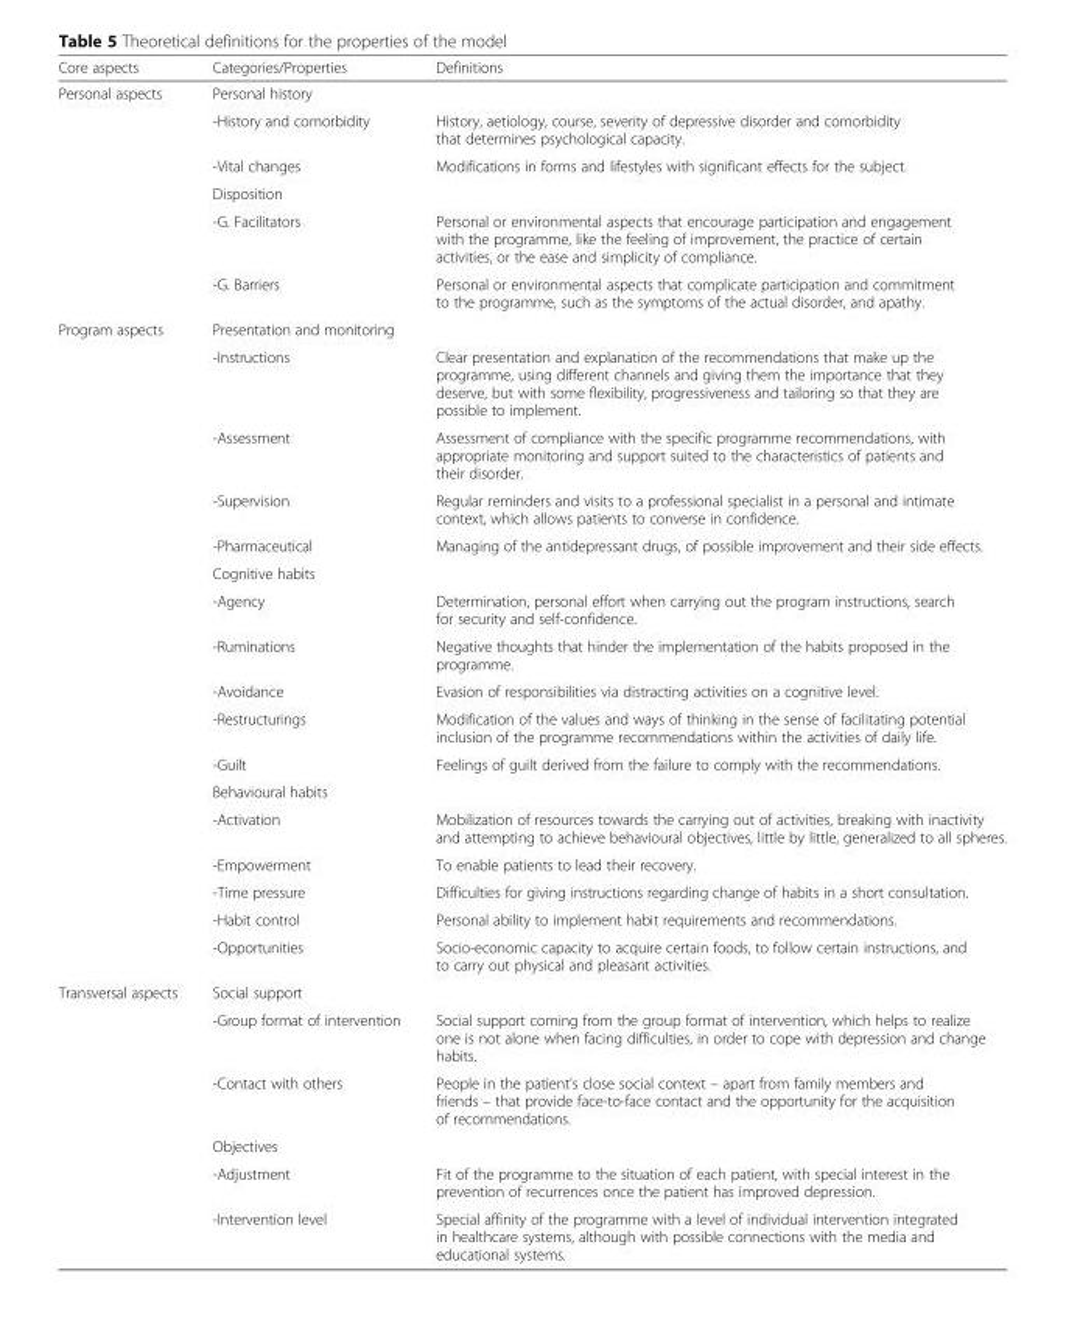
<table><thead><tr><td>Core aspects</td><td>Categories/Properties</td><td>Definitions</td></tr></thead><tbody><tr><td rowspan="6">Personal aspects</td><td>Personal history</td><td></td></tr><tr><td>-History and comorbidity</td><td>History, aetiology, course, severity of depressive disorder and comorbidity that determines psychological capacity.</td></tr><tr><td>-Vital changes</td><td>Modifications in forms and lifestyles with significant effects for the subject.</td></tr><tr><td>Disposition</td><td></td></tr><tr><td>-G. Facilitators</td><td>Personal or environmental aspects that encourage participation and engagement with the programme, like the feeling of improvement, the practice of certain activities, or the ease and simplicity of compliance.</td></tr><tr><td>-G. Barriers</td><td>Personal or environmental aspects that complicate participation and commitment to the programme, such as the symptoms of the actual disorder, and apathy.</td></tr><tr><td rowspan="17">Program aspects</td><td>Presentation and monitoring</td><td></td></tr><tr><td>-Instructions</td><td>Clear presentation and explanation of the recommendations that make up the programme, using different channels and giving them the importance that they deserve, but with some flexibility, progressiveness and tailoring so that they are possible to implement.</td></tr><tr><td>-Assessment</td><td>Assessment of compliance with the specific programme recommendations, with appropriate monitoring and support suited to the characteristics of patients and their disorder.</td></tr><tr><td>-Supervision</td><td>Regular reminders and visits to a professional specialist in a personal and intimate context, which allows patients to converse in confidence.</td></tr><tr><td>-Pharmaceutical</td><td>Managing of the antidepressant drugs, of possible improvement and their side effects.</td></tr><tr><td>Cognitive habits</td><td></td></tr><tr><td>-Agency</td><td>Determination, personal effort when carrying out the program instructions, search for security and self-confidence.</td></tr><tr><td>-Ruminations</td><td>Negative thoughts that hinder the implementation of the habits proposed in the programme.</td></tr><tr><td>-Avoidance</td><td>Evasion of responsibilities via distracting activities on a cognitive level.</td></tr><tr><td>-Restructurings</td><td>Modification of the values and ways of thinking in the sense of facilitating potential inclusion of the programme recommendations within the activities of daily life.</td></tr><tr><td>-Guilt</td><td>Feelings of guilt derived from the failure to comply with the recommendations.</td></tr><tr><td>Behavioural habits</td><td></td></tr><tr><td>-Activation</td><td>Mobilization of resources towards the carrying out of activities, breaking with inactivity and attempting to achieve behavioural objectives, little by little, generalized to all spheres.</td></tr><tr><td>-Empowerment</td><td>To enable patients to lead their recovery.</td></tr><tr><td>-Time pressure</td><td>Difficulties for giving instructions regarding change of habits in a short consultation.</td></tr><tr><td>-Habit control</td><td>Personal ability to implement habit requirements and recommendations.</td></tr><tr><td>-Opportunities</td><td>Socio-economic capacity to acquire certain foods, to follow certain instructions, and to carry out physical and pleasant activities.</td></tr><tr><td rowspan="6">Transversal aspects</td><td>Social support</td><td></td></tr><tr><td>-Group format of intervention</td><td>Social support coming from the group format of intervention, which helps to realize one is not alone when facing difficulties, in order to cope with depression and change habits.</td></tr><tr><td>-Contact with others</td><td>People in the patient’s close social context – apart from family members and friends – that provide face-to-face contact and the opportunity for the acquisition of recommendations.</td></tr><tr><td>Objectives</td><td></td></tr><tr><td>-Adjustment</td><td>Fit of the programme to the situation of each patient, with special interest in the prevention of recurrences once the patient has improved depression.</td></tr><tr><td>-Intervention level</td><td>Special affinity of the programme with a level of individual intervention integrated in healthcare systems, although with possible connections with the media and educational systems.</td></tr></tbody></table>